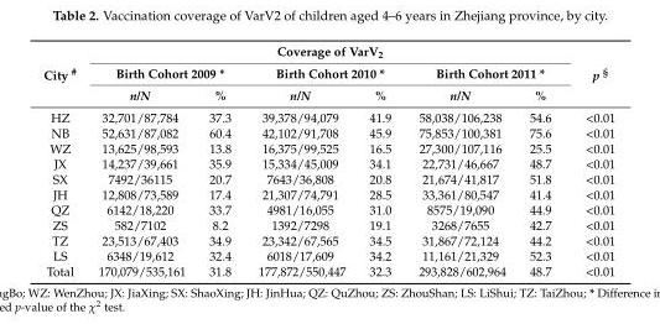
<table><thead><tr><td rowspan="3">City <sup>#</sup></td><td colspan="6">Coverage of VarV<sub>2</sub></td><td rowspan="3">p <sup>§</sup></td></tr><tr><td colspan="2">Birth Cohort 2009 *</td><td colspan="2">Birth Cohort 2010 *</td><td colspan="2">Birth Cohort 2011 *</td></tr><tr><td>n/N</td><td>%</td><td>n/N</td><td>%</td><td>n/N</td><td>%</td></tr></thead><tbody><tr><td>HZ</td><td>32,701/87,784</td><td>37.3</td><td>39,378/94,079</td><td>41.9</td><td>58,038/106,238</td><td>54.6</td><td>&lt;0.01</td></tr><tr><td>NB</td><td>52,631/87,082</td><td>60.4</td><td>42,102/91,708</td><td>45.9</td><td>75,853/100,381</td><td>75.6</td><td>&lt;0.01</td></tr><tr><td>WZ</td><td>13,625/98,593</td><td>13.8</td><td>16,375/99,525</td><td>16.5</td><td>27,300/107,116</td><td>25.5</td><td>&lt;0.01</td></tr><tr><td>JX</td><td>14,237/39,661</td><td>35.9</td><td>15,334/45,009</td><td>34.1</td><td>22,731/46,667</td><td>48.7</td><td>&lt;0.01</td></tr><tr><td>SX</td><td>7492/36115</td><td>20.7</td><td>7643/36,808</td><td>20.8</td><td>21,674/41,817</td><td>51.8</td><td>&lt;0.01</td></tr><tr><td>JH</td><td>12,808/73,589</td><td>17.4</td><td>21,307/74,791</td><td>28.5</td><td>33,361/80,547</td><td>41.4</td><td>&lt;0.01</td></tr><tr><td>QZ</td><td>6142/18,220</td><td>33.7</td><td>4981/16,055</td><td>31.0</td><td>8575/19,090</td><td>44.9</td><td>&lt;0.01</td></tr><tr><td>ZS</td><td>582/7102</td><td>8.2</td><td>1392/7298</td><td>19.1</td><td>3268/7655</td><td>42.7</td><td>&lt;0.01</td></tr><tr><td>TZ</td><td>23,513/67,403</td><td>34.9</td><td>23,342/67,565</td><td>34.5</td><td>31,867/72,124</td><td>44.2</td><td>&lt;0.01</td></tr><tr><td>LS</td><td>6348/19,612</td><td>32.4</td><td>6018/17,609</td><td>34.2</td><td>11,161/21,329</td><td>52.3</td><td>&lt;0.01</td></tr><tr><td>Total</td><td>170,079/535,161</td><td>31.8</td><td>177,872/550,447</td><td>32.3</td><td>293,828/602,964</td><td>48.7</td><td>&lt;0.01</td></tr></tbody></table>